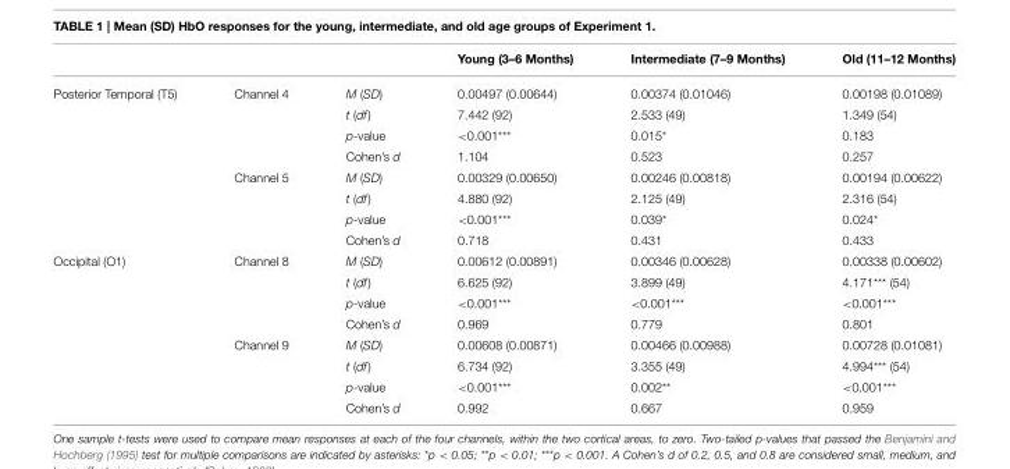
<table><thead><tr><td></td><td></td><td></td><td>Young (3–6 Months)</td><td>Intermediate (7–9 Months)</td><td>Old (11–12 Months)</td></tr></thead><tbody><tr><td rowspan="8">Posterior Temporal (T5)</td><td>Channel 4</td><td>M (SD)</td><td>0.00497 (0.00644)</td><td>0.00374 (0.01046)</td><td>0.00198 (0.01089)</td></tr><tr><td></td><td>t (df)</td><td>7.442 (92)</td><td>2.533 (49)</td><td>1.349 (54)</td></tr><tr><td></td><td>p-value</td><td>&lt;0.001***</td><td>0.015*</td><td>0.183</td></tr><tr><td></td><td>Cohen’s d</td><td>1.104</td><td>0.523</td><td>0.257</td></tr><tr><td>Channel 5</td><td>M (SD)</td><td>0.00329 (0.00650)</td><td>0.00246 (0.00818)</td><td>0.00194 (0.00622)</td></tr><tr><td></td><td>t (df)</td><td>4.880 (92)</td><td>2.125 (49)</td><td>2.316 (54)</td></tr><tr><td></td><td>p-value</td><td>&lt;0.001***</td><td>0.039*</td><td>0.024*</td></tr><tr><td></td><td>Cohen’s d</td><td>0.718</td><td>0.431</td><td>0.433</td></tr><tr><td rowspan="8">Occipital (O1)</td><td>Channel 8</td><td>M (SD)</td><td>0.00612 (0.00891)</td><td>0.00346 (0.00628)</td><td>0.00338 (0.00602)</td></tr><tr><td></td><td>t (df)</td><td>6.625 (92)</td><td>3.899 (49)</td><td>4.171*** (54)</td></tr><tr><td></td><td>p-value</td><td>&lt;0.001***</td><td>&lt;0.001***</td><td>&lt;0.001***</td></tr><tr><td></td><td>Cohen’s d</td><td>0.969</td><td>0.779</td><td>0.801</td></tr><tr><td>Channel 9</td><td>M (SD)</td><td>0.00608 (0.00871)</td><td>0.00466 (0.00988)</td><td>0.00728 (0.01081)</td></tr><tr><td></td><td>t (df)</td><td>6.734 (92)</td><td>3.355 (49)</td><td>4.994*** (54)</td></tr><tr><td></td><td>p-value</td><td>&lt;0.001***</td><td>0.002**</td><td>&lt;0.001***</td></tr><tr><td></td><td>Cohen’s d</td><td>0.992</td><td>0.667</td><td>0.959</td></tr></tbody></table>